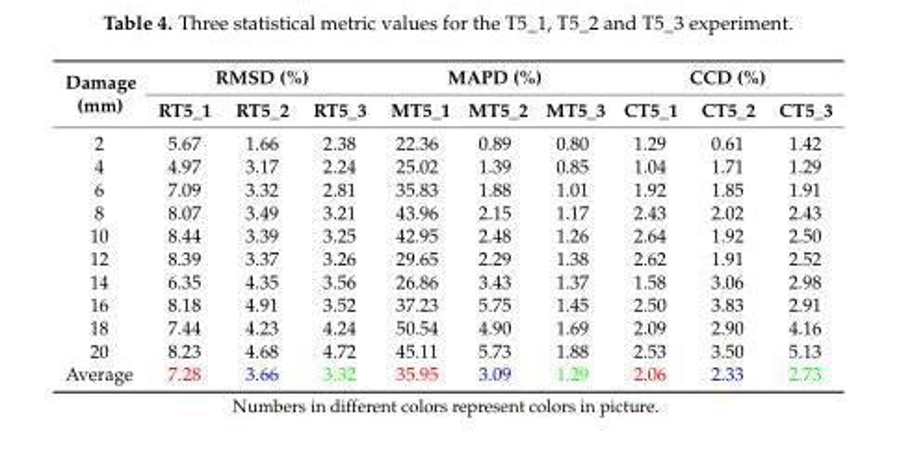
<table><thead><tr><td rowspan="2">Damage (mm)</td><td colspan="3">RMSD (%)</td><td colspan="3">MAPD (%)</td><td colspan="3">CCD (%)</td></tr><tr><td>RT5_1</td><td>RT5_2</td><td>RT5_3</td><td>MT5_1</td><td>MT5_2</td><td>MT5_3</td><td>CT5_1</td><td>CT5_2</td><td>CT5_3</td></tr></thead><tbody><tr><td>2</td><td>5.67</td><td>1.66</td><td>2.38</td><td>22.36</td><td>0.89</td><td>0.80</td><td>1.29</td><td>0.61</td><td>1.42</td></tr><tr><td>4</td><td>4.97</td><td>3.17</td><td>2.24</td><td>25.02</td><td>1.39</td><td>0.85</td><td>1.04</td><td>1.71</td><td>1.29</td></tr><tr><td>6</td><td>7.09</td><td>3.32</td><td>2.81</td><td>35.83</td><td>1.88</td><td>1.01</td><td>1.92</td><td>1.85</td><td>1.91</td></tr><tr><td>8</td><td>8.07</td><td>3.49</td><td>3.21</td><td>43.96</td><td>2.15</td><td>1.17</td><td>2.43</td><td>2.02</td><td>2.43</td></tr><tr><td>10</td><td>8.44</td><td>3.39</td><td>3.25</td><td>42.95</td><td>2.48</td><td>1.26</td><td>2.64</td><td>1.92</td><td>2.50</td></tr><tr><td>12</td><td>8.39</td><td>3.37</td><td>3.26</td><td>29.65</td><td>2.29</td><td>1.38</td><td>2.62</td><td>1.91</td><td>2.52</td></tr><tr><td>14</td><td>6.35</td><td>4.35</td><td>3.56</td><td>26.86</td><td>3.43</td><td>1.37</td><td>1.58</td><td>3.06</td><td>2.98</td></tr><tr><td>16</td><td>8.18</td><td>4.91</td><td>3.52</td><td>37.23</td><td>5.75</td><td>1.45</td><td>2.50</td><td>3.83</td><td>2.91</td></tr><tr><td>18</td><td>7.44</td><td>4.23</td><td>4.24</td><td>50.54</td><td>4.90</td><td>1.69</td><td>2.09</td><td>2.90</td><td>4.16</td></tr><tr><td>20</td><td>8.23</td><td>4.68</td><td>4.72</td><td>45.11</td><td>5.73</td><td>1.88</td><td>2.53</td><td>3.50</td><td>5.13</td></tr><tr><td>Average</td><td>7.28</td><td>3.66</td><td>3.32</td><td>35.95</td><td>3.09</td><td>1.29</td><td>2.06</td><td>2.33</td><td>2.73</td></tr></tbody></table>